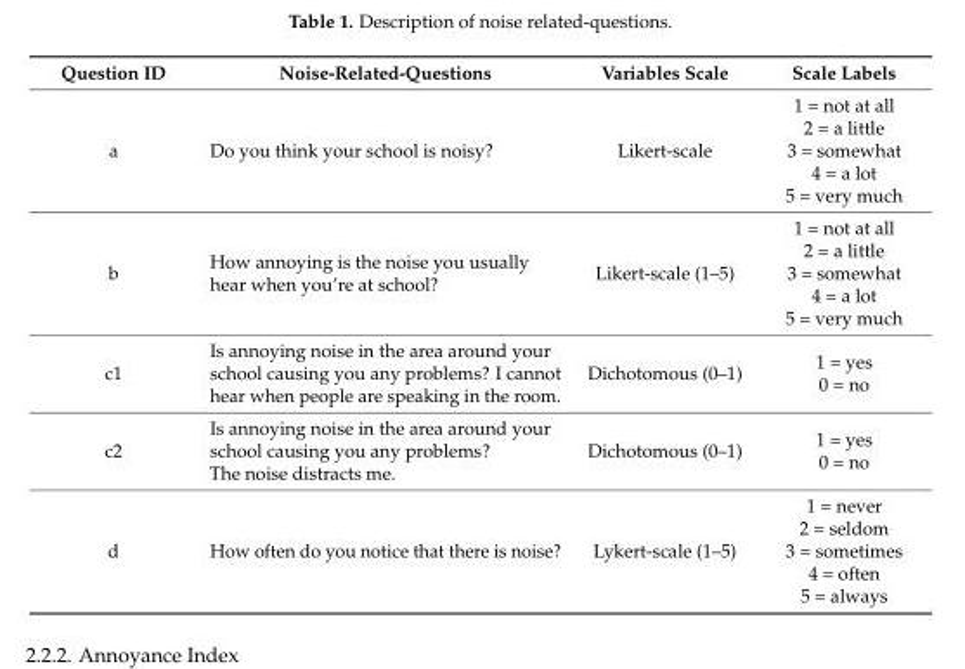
<table><thead><tr><td>Question ID</td><td>Noise-Related-Questions</td><td>Variables Scale</td><td>Scale Labels</td></tr></thead><tbody><tr><td>a</td><td>Do you think your school is noisy?</td><td>Likert-scale</td><td>1 = not at all 2 = a little 3 = somewhat 4 = a lot 5 = very much</td></tr><tr><td>b</td><td>How annoying is the noise you usually hear when you’re at school?</td><td>Likert-scale (1–5)</td><td>1 = not at all 2 = a little 3 = somewhat 4 = a lot 5 = very much</td></tr><tr><td>c1</td><td>Is annoying noise in the area around your school causing you any problems? I cannot hear when people are speaking in the room.</td><td>Dichotomous (0–1)</td><td>1 = yes 0 = no</td></tr><tr><td>c2</td><td>Is annoying noise in the area around your school causing you any problems? The noise distracts me.</td><td>Dichotomous (0–1)</td><td>1 = yes 0 = no</td></tr><tr><td>d</td><td>How often do you notice that there is noise?</td><td>Lykert-scale (1–5)</td><td>1 = never 2 = seldom 3 = sometimes 4 = often 5 = always</td></tr></tbody></table>